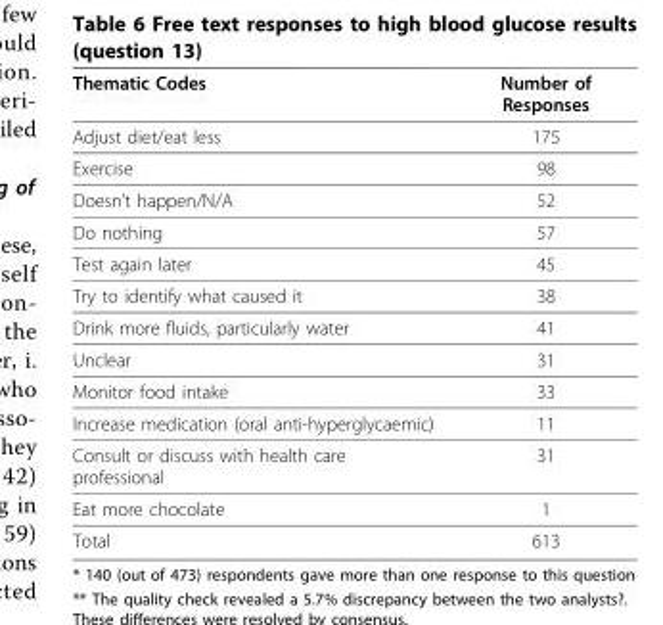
<table><thead><tr><td>Thematic Codes</td><td>Number of Responses</td></tr></thead><tbody><tr><td>Adjust diet/eat less</td><td>175</td></tr><tr><td>Exercise</td><td>98</td></tr><tr><td>Doesn’t happen/N/A</td><td>52</td></tr><tr><td>Do nothing</td><td>57</td></tr><tr><td>Test again later</td><td>45</td></tr><tr><td>Try to identify what caused it</td><td>38</td></tr><tr><td>Drink more fluids, particularly water</td><td>41</td></tr><tr><td>Unclear</td><td>31</td></tr><tr><td>Monitor food intake</td><td>33</td></tr><tr><td>Increase medication (oral anti-hyperglycaemic)</td><td>11</td></tr><tr><td>Consult or discuss with health care professional</td><td>31</td></tr><tr><td>Eat more chocolate</td><td>1</td></tr><tr><td>Total</td><td>613</td></tr></tbody></table>